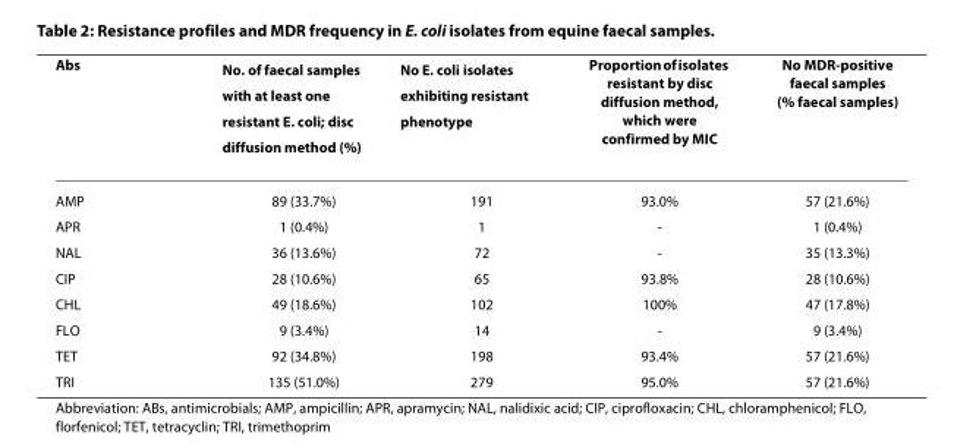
<table><thead><tr><td>Abs</td><td>No. of faecal samples with at least one resistant E. coli; disc diffusion method (%)</td><td>No E. coli isolates exhibiting resistant phenotype</td><td>Proportion of isolates resistant by disc diffusion method, which were confirmed by MIC</td><td>No MDR-positive faecal samples (% faecal samples)</td></tr></thead><tbody><tr><td>AMP</td><td>89 (33.7%)</td><td>191</td><td>93.0%</td><td>57 (21.6%)</td></tr><tr><td>APR</td><td>1 (0.4%)</td><td>1</td><td>-</td><td>1 (0.4%)</td></tr><tr><td>NAL</td><td>36 (13.6%)</td><td>72</td><td>-</td><td>35 (13.3%)</td></tr><tr><td>CIP</td><td>28 (10.6%)</td><td>65</td><td>93.8%</td><td>28 (10.6%)</td></tr><tr><td>CHL</td><td>49 (18.6%)</td><td>102</td><td>100%</td><td>47 (17.8%)</td></tr><tr><td>FLO</td><td>9 (3.4%)</td><td>14</td><td>-</td><td>9 (3.4%)</td></tr><tr><td>TET</td><td>92 (34.8%)</td><td>198</td><td>93.4%</td><td>57 (21.6%)</td></tr><tr><td>TRI</td><td>135 (51.0%)</td><td>279</td><td>95.0%</td><td>57 (21.6%)</td></tr></tbody></table>